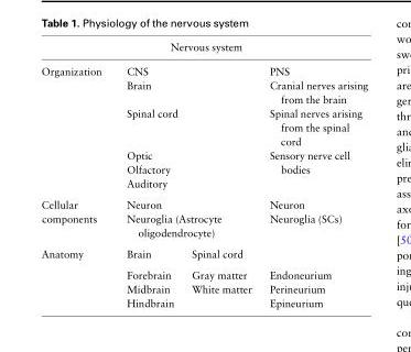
<table><thead><tr><td colspan="4">Nervous system</td></tr></thead><tbody><tr><td rowspan="6">Organization</td><td colspan="2">CNS</td><td>PNS</td></tr><tr><td colspan="2">Brain</td><td>Cranial nerves arising from the brain</td></tr><tr><td colspan="2">Spinal cord</td><td>Spinal nerves arising from the spinal cord</td></tr><tr><td colspan="2">Optic</td><td rowspan="3">Sensory nerve cell bodies</td></tr><tr><td colspan="2">Olfactory</td></tr><tr><td colspan="2">Auditory</td></tr><tr><td rowspan="2">Cellular components</td><td colspan="2">Neuron</td><td>Neuron</td></tr><tr><td colspan="2">Neuroglia (Astrocyte oligodendrocyte)</td><td>Neuroglia (SCs)</td></tr><tr><td rowspan="4">Anatomy</td><td>Brain</td><td>Spinal cord</td><td></td></tr><tr><td>Forebrain</td><td>Gray matter</td><td>Endoneurium</td></tr><tr><td>Midbrain</td><td>White matter</td><td>Perineurium</td></tr><tr><td>Hindbrain</td><td></td><td>Epineurium</td></tr></tbody></table>